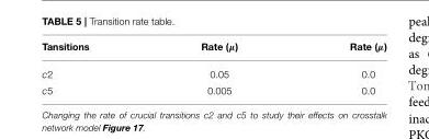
<table><thead><tr><td>Tansitions</td><td>Rate (µ)</td><td>Rate (µ)</td></tr></thead><tbody><tr><td>c2</td><td>0.05</td><td>0.0</td></tr><tr><td>c5</td><td>0.005</td><td>0.0</td></tr></tbody></table>